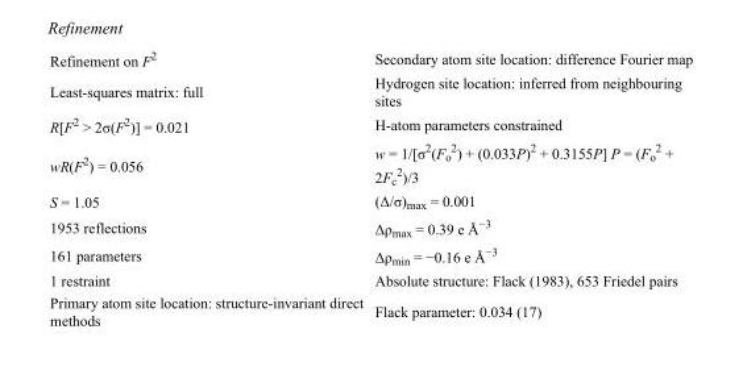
<table><tbody><tr><td>Refinement on F<sup>2</sup></td><td>Secondary atom site location: difference Fourier map</td></tr><tr><td>Least-squares matrix: full</td><td>Hydrogen site location: inferred from neighbouring sites</td></tr><tr><td>R[F<sup>2</sup> &gt; 2σ(F<sup>2</sup>)] = 0.021</td><td>H-atom parameters constrained</td></tr><tr><td>wR(F<sup>2</sup>) = 0.056</td><td>w = 1/[σ<sup>2</sup>(F<sub>o</sub> <sup>2</sup>) + (0.033P)<sup>2</sup> + 0.3155P] P = (F<sub>o</sub> <sup>2</sup> + 2F<sub>c</sub> <sup>2</sup>)/3</td></tr><tr><td>S = 1.05</td><td>(Δ/σ)<sub>max</sub> = 0.001</td></tr><tr><td>1953 reflections</td><td>Δρ<sub>max</sub> = 0.39 e Å<sup>−3</sup></td></tr><tr><td>161 parameters</td><td>Δρ<sub>min</sub> = −0.16 e Å<sup>−3</sup></td></tr><tr><td>1 restraint</td><td>Absolute structure: Flack (1983), 653 Friedel pairs</td></tr><tr><td>Primary atom site location: structure-invariant direct methods</td><td>Flack parameter: 0.034 (17)</td></tr></tbody></table>